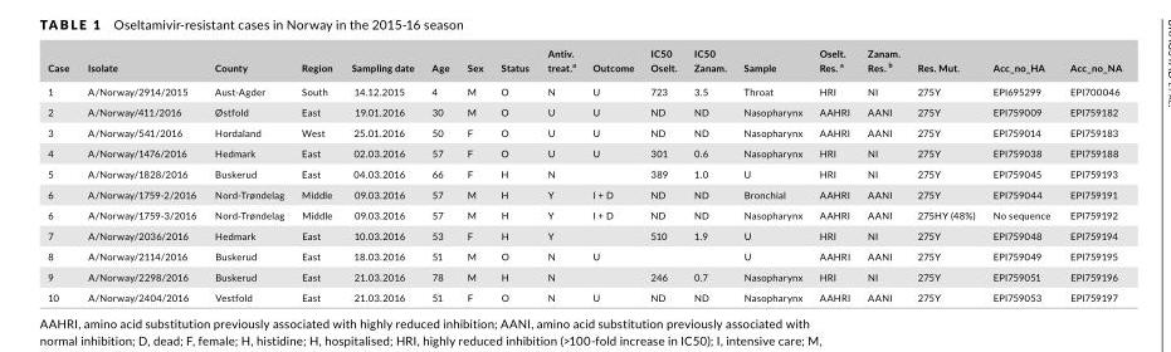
<table><thead><tr><td>Case</td><td>Isolate</td><td>County</td><td>Region</td><td>Sampling date</td><td>Age</td><td>Sex</td><td>Status</td><td>Antiv. treat.<sup>a</sup></td><td>Outcome</td><td>IC50 Oselt.</td><td>IC50 Zanam.</td><td>Sample</td><td>Oselt. Res. a</td><td>Zanam. Res. b</td><td>Res. Mut.</td><td>Acc_no_HA</td><td>Acc_no_NA</td></tr></thead><tbody><tr><td>1</td><td>A/Norway/2914/2015</td><td>Aust‐Agder</td><td>South</td><td>14.12.2015</td><td>4</td><td>M</td><td>O</td><td>N</td><td>U</td><td>723</td><td>3.5</td><td>Throat</td><td>HRI</td><td>NI</td><td>275Y</td><td>EPI695299</td><td>EPI700046</td></tr><tr><td>2</td><td>A/Norway/411/2016</td><td>Østfold</td><td>East</td><td>19.01.2016</td><td>30</td><td>M</td><td>O</td><td>U</td><td>U</td><td>ND</td><td>ND</td><td>Nasopharynx</td><td>AAHRI</td><td>AANI</td><td>275Y</td><td>EPI759009</td><td>EPI759182</td></tr><tr><td>3</td><td>A/Norway/541/2016</td><td>Hordaland</td><td>West</td><td>25.01.2016</td><td>50</td><td>F</td><td>O</td><td>U</td><td>U</td><td>ND</td><td>ND</td><td>Nasopharynx</td><td>AAHRI</td><td>AANI</td><td>275Y</td><td>EPI759014</td><td>EPI759183</td></tr><tr><td>4</td><td>A/Norway/1476/2016</td><td>Hedmark</td><td>East</td><td>02.03.2016</td><td>57</td><td>F</td><td>O</td><td>U</td><td>U</td><td>301</td><td>0.6</td><td>Nasopharynx</td><td>HRI</td><td>NI</td><td>275Y</td><td>EPI759038</td><td>EPI759188</td></tr><tr><td>5</td><td>A/Norway/1828/2016</td><td>Buskerud</td><td>East</td><td>04.03.2016</td><td>66</td><td>F</td><td>H</td><td>N</td><td></td><td>389</td><td>1.0</td><td>U</td><td>HRI</td><td>NI</td><td>275Y</td><td>EPI759045</td><td>EPI759193</td></tr><tr><td>6</td><td>A/Norway/1759‐2/2016</td><td>Nord‐Trøndelag</td><td>Middle</td><td>09.03.2016</td><td>57</td><td>M</td><td>H</td><td>Y</td><td>I + D</td><td>ND</td><td>ND</td><td>Bronchial</td><td>AAHRI</td><td>AANI</td><td>275Y</td><td>EPI759044</td><td>EPI759191</td></tr><tr><td>6</td><td>A/Norway/1759‐3/2016</td><td>Nord‐Trøndelag</td><td>Middle</td><td>09.03.2016</td><td>57</td><td>M</td><td>H</td><td>Y</td><td>I + D</td><td>ND</td><td>ND</td><td>Nasopharynx</td><td>AAHRI</td><td>AANI</td><td>275HY (48%)</td><td>No sequence</td><td>EPI759192</td></tr><tr><td>7</td><td>A/Norway/2036/2016</td><td>Hedmark</td><td>East</td><td>10.03.2016</td><td>53</td><td>F</td><td>H</td><td>Y</td><td></td><td>510</td><td>1.9</td><td>U</td><td>HRI</td><td>NI</td><td>275Y</td><td>EPI759048</td><td>EPI759194</td></tr><tr><td>8</td><td>A/Norway/2114/2016</td><td>Buskerud</td><td>East</td><td>18.03.2016</td><td>51</td><td>M</td><td>O</td><td>N</td><td>U</td><td></td><td></td><td>U</td><td>AAHRI</td><td>AANI</td><td>275Y</td><td>EPI759049</td><td>EPI759195</td></tr><tr><td>9</td><td>A/Norway/2298/2016</td><td>Buskerud</td><td>East</td><td>21.03.2016</td><td>78</td><td>M</td><td>H</td><td>N</td><td></td><td>246</td><td>0.7</td><td>Nasopharynx</td><td>HRI</td><td>NI</td><td>275Y</td><td>EPI759051</td><td>EPI759196</td></tr><tr><td>10</td><td>A/Norway/2404/2016</td><td>Vestfold</td><td>East</td><td>21.03.2016</td><td>51</td><td>F</td><td>O</td><td>N</td><td>U</td><td>ND</td><td>ND</td><td>Nasopharynx</td><td>AAHRI</td><td>AANI</td><td>275Y</td><td>EPI759053</td><td>EPI759197</td></tr></tbody></table>